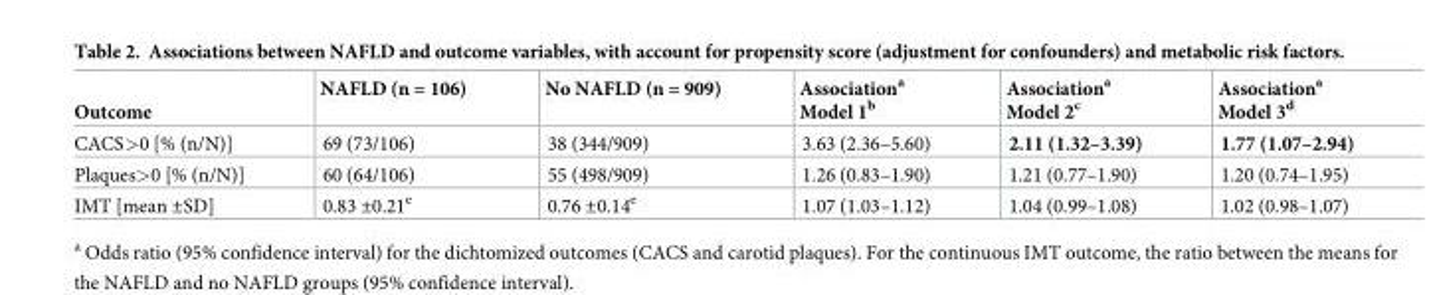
<table><thead><tr><td>Outcome</td><td>NAFLD (n = 106)</td><td>No NAFLD (n = 909)</td><td>Association<sup>a</sup> Model 1<sup>b</sup></td><td>Association<sup>a</sup> Model 2<sup>c</sup></td><td>Association<sup>a</sup> Model 3<sup>d</sup></td></tr></thead><tbody><tr><td>CACS&gt;0 [% (n/N)]</td><td>69 (73/106)</td><td>38 (344/909)</td><td>3.63 (2.36–5.60)</td><td>2.11 (1.32–3.39)</td><td>1.77 (1.07–2.94)</td></tr><tr><td>Plaques&gt;0 [% (n/N)]</td><td>60 (64/106)</td><td>55 (498/909)</td><td>1.26 (0.83–1.90)</td><td>1.21 (0.77–1.90)</td><td>1.20 (0.74–1.95)</td></tr><tr><td>IMT [mean ±SD]</td><td>0.83 ±0.21<sup>e</sup></td><td>0.76 ±0.14<sup>e</sup></td><td>1.07 (1.03–1.12)</td><td>1.04 (0.99–1.08)</td><td>1.02 (0.98–1.07)</td></tr></tbody></table>